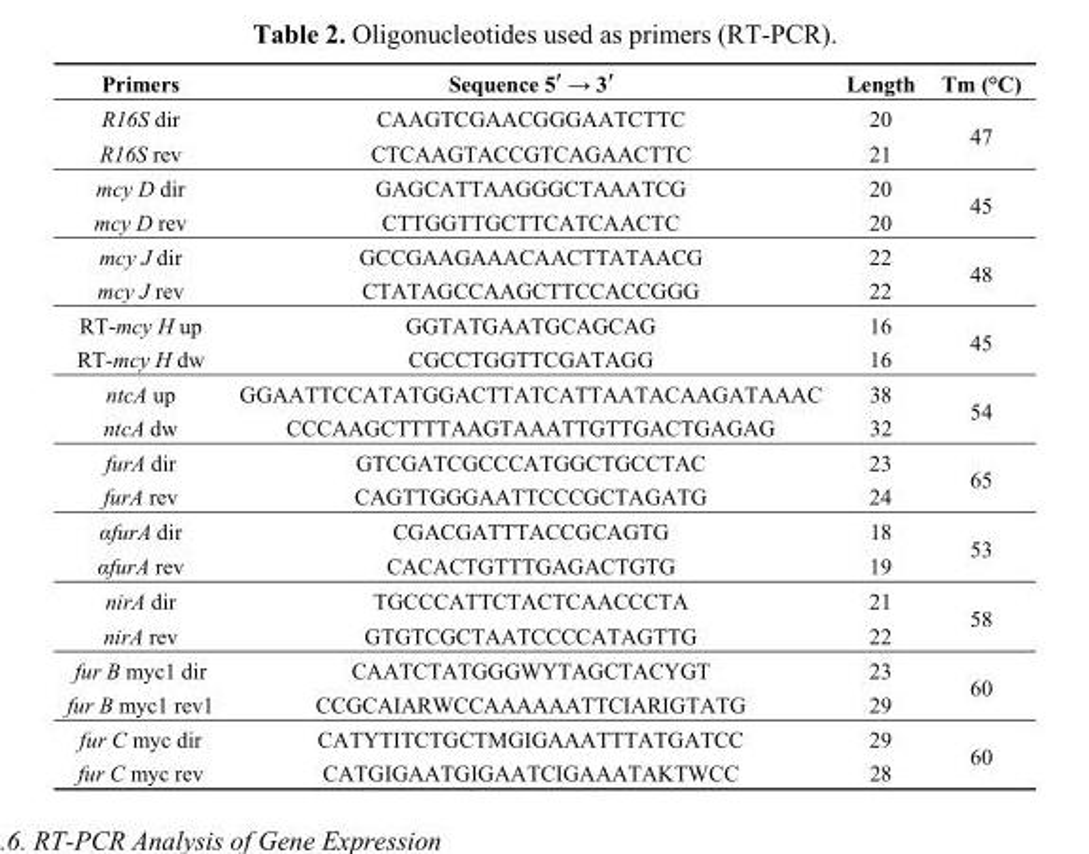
<table><thead><tr><td>Primers</td><td>Sequence 5′ → 3′</td><td>Length</td><td>Tm (°C)</td></tr></thead><tbody><tr><td>R16S dir</td><td>CAAGTCGAACGGGAATCTTC</td><td>20</td><td rowspan="2">47</td></tr><tr><td>R16S rev</td><td>CTCAAGTACCGTCAGAACTTC</td><td>21</td></tr><tr><td>mcy D dir</td><td>GAGCATTAAGGGCTAAATCG</td><td>20</td><td rowspan="2">45</td></tr><tr><td>mcy D rev</td><td>CTTGGTTGCTTCATCAACTC</td><td>20</td></tr><tr><td>mcy J dir</td><td>GCCGAAGAAACAACTTATAACG</td><td>22</td><td rowspan="2">48</td></tr><tr><td>mcy J rev</td><td>CTATAGCCAAGCTTCCACCGGG</td><td>22</td></tr><tr><td>RT-mcy H up</td><td>GGTATGAATGCAGCAG</td><td>16</td><td rowspan="2">45</td></tr><tr><td>RT-mcy H dw</td><td>CGCCTGGTTCGATAGG</td><td>16</td></tr><tr><td>ntcA up</td><td>GGAATTCCATATGGACTTATCATTAATACAAGATAAAC</td><td>38</td><td rowspan="2">54</td></tr><tr><td>ntcA dw</td><td>CCCAAGCTTTTAAGTAAATTGTTGACTGAGAG</td><td>32</td></tr><tr><td>furA dir</td><td>GTCGATCGCCCATGGCTGCCTAC</td><td>23</td><td rowspan="2">65</td></tr><tr><td>furA rev</td><td>CAGTTGGGAATTCCCGCTAGATG</td><td>24</td></tr><tr><td>αfurA dir</td><td>CGACGATTTACCGCAGTG</td><td>18</td><td rowspan="2">53</td></tr><tr><td>αfurA rev</td><td>CACACTGTTTGAGACTGTG</td><td>19</td></tr><tr><td>nirA dir</td><td>TGCCCATTCTACTCAACCCTA</td><td>21</td><td rowspan="2">58</td></tr><tr><td>nirA rev</td><td>GTGTCGCTAATCCCCATAGTTG</td><td>22</td></tr><tr><td>fur B myc1 dir</td><td>CAATCTATGGGWYTAGCTACYGT</td><td>23</td><td rowspan="2">60</td></tr><tr><td>fur B myc1 rev1</td><td>CCGCAIARWCCAAAAAATTCIARIGTATG</td><td>29</td></tr><tr><td>fur C myc dir</td><td>CATYTITCTGCTMGIGAAATTTATGATCC</td><td>29</td><td rowspan="2">60</td></tr><tr><td>fur C myc rev</td><td>CATGIGAATGIGAATCIGAAATAKTWCC</td><td>28</td></tr></tbody></table>